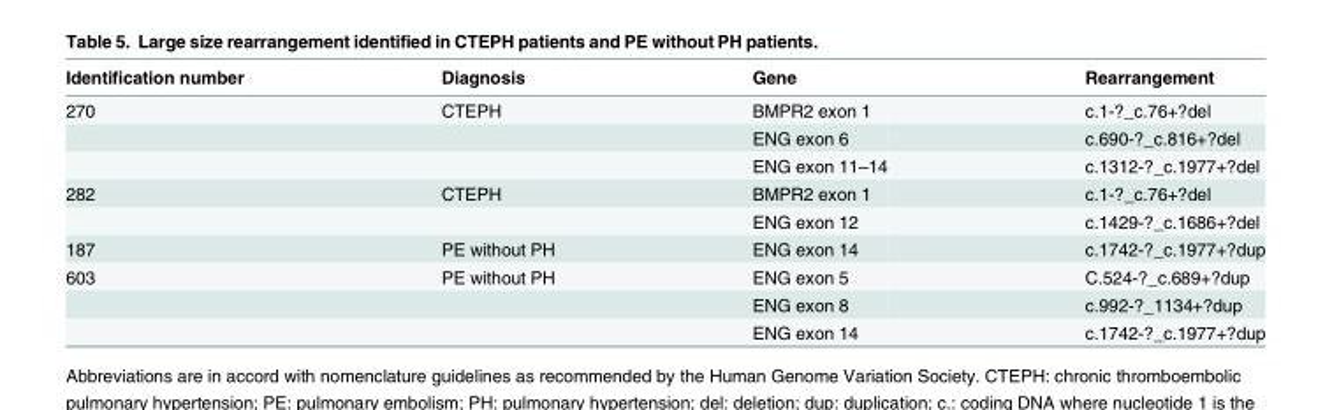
<table><thead><tr><td>Identification number</td><td>Diagnosis</td><td>Gene</td><td>Rearrangement</td></tr></thead><tbody><tr><td rowspan="3">270</td><td>CTEPH</td><td>BMPR2 exon 1</td><td>c.1-?_c.76+?del</td></tr><tr><td></td><td>ENG exon 6</td><td>c.690-?_c.816+?del</td></tr><tr><td></td><td>ENG exon 11–14</td><td>c.1312-?_c.1977+?del</td></tr><tr><td rowspan="2">282</td><td>CTEPH</td><td>BMPR2 exon 1</td><td>c.1-?_c.76+?del</td></tr><tr><td></td><td>ENG exon 12</td><td>c.1429-?_c.1686+?del</td></tr><tr><td>187</td><td>PE without PH</td><td>ENG exon 14</td><td>c.1742-?_c.1977+?dup</td></tr><tr><td rowspan="3">603</td><td>PE without PH</td><td>ENG exon 5</td><td>C.524-?_c.689+?dup</td></tr><tr><td></td><td>ENG exon 8</td><td>c.992-?_1134+?dup</td></tr><tr><td></td><td>ENG exon 14</td><td>c.1742-?_c.1977+?dup</td></tr></tbody></table>